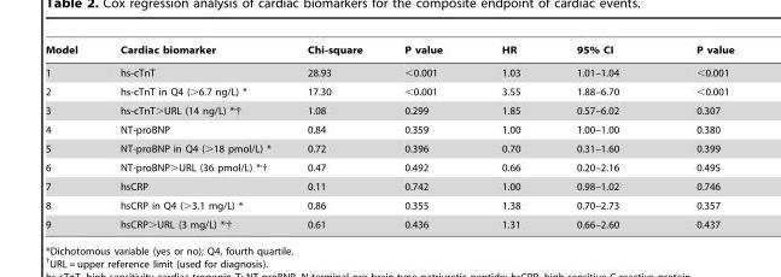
<table><thead><tr><td>Model</td><td>Cardiac biomarker</td><td>Chi-square</td><td>P value</td><td>HR</td><td>95% CI</td><td>P value</td></tr></thead><tbody><tr><td>1</td><td>hs-cTnT</td><td>28.93</td><td>&lt;0.001</td><td>1.03</td><td>1.01–1.04</td><td>&lt;0.001</td></tr><tr><td>2</td><td>hs-cTnT in Q4 (&gt;6.7 ng/L) *</td><td>17.30</td><td>&lt;0.001</td><td>3.55</td><td>1.88–6.70</td><td>&lt;0.001</td></tr><tr><td>3</td><td>hs-cTnT&gt;URL (14 ng/L) *<sup>,</sup>†</td><td>1.08</td><td>0.299</td><td>1.85</td><td>0.57–6.02</td><td>0.307</td></tr><tr><td>4</td><td>NT-proBNP</td><td>0.84</td><td>0.359</td><td>1.00</td><td>1.00–1.00</td><td>0.380</td></tr><tr><td>5</td><td>NT-proBNP in Q4 (&gt;18 pmol/L) *</td><td>0.72</td><td>0.396</td><td>0.70</td><td>0.31–1.60</td><td>0.399</td></tr><tr><td>6</td><td>NT-proBNP&gt;URL (36 pmol/L) *<sup>,</sup>†</td><td>0.47</td><td>0.492</td><td>0.66</td><td>0.20–2.16</td><td>0.495</td></tr><tr><td>7</td><td>hsCRP</td><td>0.11</td><td>0.742</td><td>1.00</td><td>0.98–1.02</td><td>0.746</td></tr><tr><td>8</td><td>hsCRP in Q4 (&gt;3.1 mg/L) *</td><td>0.86</td><td>0.355</td><td>1.38</td><td>0.70–2.73</td><td>0.357</td></tr><tr><td>9</td><td>hsCRP&gt;URL (3 mg/L) *<sup>,</sup>†</td><td>0.61</td><td>0.436</td><td>1.31</td><td>0.66–2.60</td><td>0.437</td></tr></tbody></table>